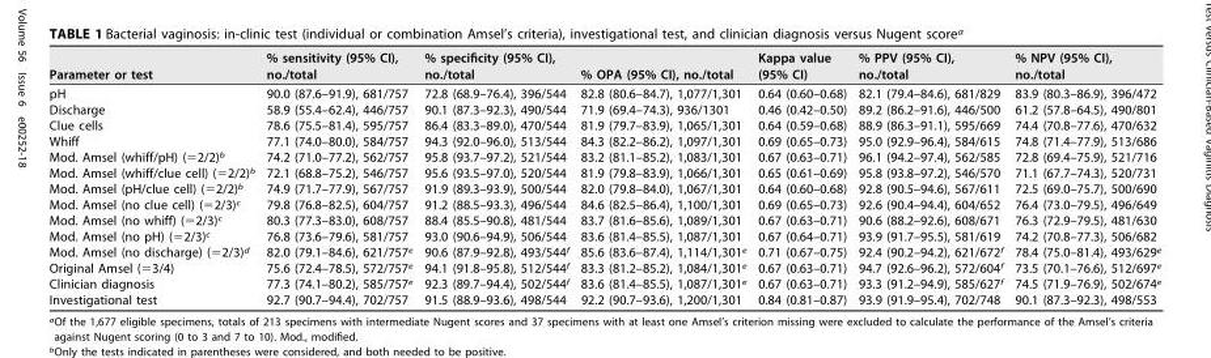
<table><thead><tr><td>Parameter or test</td><td>% sensitivity (95% CI), no./total</td><td>% specificity (95% CI), no./total</td><td>% OPA (95% CI), no./total</td><td>Kappa value (95% CI)</td><td>% PPV (95% CI), no./total</td><td>% NPV (95% CI), no./total</td></tr></thead><tbody><tr><td>pH</td><td>90.0 (87.6–91.9), 681/757</td><td>72.8 (68.9–76.4), 396/544</td><td>82.8 (80.6–84.7), 1,077/1,301</td><td>0.64 (0.60–0.68)</td><td>82.1 (79.4–84.6), 681/829</td><td>83.9 (80.3–86.9), 396/472</td></tr><tr><td>Discharge</td><td>58.9 (55.4–62.4), 446/757</td><td>90.1 (87.3–92.3), 490/544</td><td>71.9 (69.4–74.3), 936/1301</td><td>0.46 (0.42–0.50)</td><td>89.2 (86.2–91.6), 446/500</td><td>61.2 (57.8–64.5), 490/801</td></tr><tr><td>Clue cells</td><td>78.6 (75.5–81.4), 595/757</td><td>86.4 (83.3–89.0), 470/544</td><td>81.9 (79.7–83.9), 1,065/1,301</td><td>0.64 (0.59–0.68)</td><td>88.9 (86.3–91.1), 595/669</td><td>74.4 (70.8–77.6), 470/632</td></tr><tr><td>Whiff</td><td>77.1 (74.0–80.0), 584/757</td><td>94.3 (92.0–96.0), 513/544</td><td>84.3 (82.2–86.2), 1,097/1,301</td><td>0.69 (0.65–0.73)</td><td>95.0 (92.9–96.4), 584/615</td><td>74.8 (71.4–77.9), 513/686</td></tr><tr><td>Mod. Amsel (whiff/pH) (=2/2)<sup>b</sup></td><td>74.2 (71.0–77.2), 562/757</td><td>95.8 (93.7–97.2), 521/544</td><td>83.2 (81.1–85.2), 1,083/1,301</td><td>0.67 (0.63–0.71)</td><td>96.1 (94.2–97.4), 562/585</td><td>72.8 (69.4–75.9), 521/716</td></tr><tr><td>Mod. Amsel (whiff/clue cell) (=2/2)<sup>b</sup></td><td>72.1 (68.8–75.2), 546/757</td><td>95.6 (93.5–97.0), 520/544</td><td>81.9 (79.8–83.9), 1,066/1,301</td><td>0.65 (0.61–0.69)</td><td>95.8 (93.8–97.2), 546/570</td><td>71.1 (67.7–74.3), 520/731</td></tr><tr><td>Mod. Amsel (pH/clue cell) (=2/2)<sup>b</sup></td><td>74.9 (71.7–77.9), 567/757</td><td>91.9 (89.3–93.9), 500/544</td><td>82.0 (79.8–84.0), 1,067/1,301</td><td>0.64 (0.60–0.68)</td><td>92.8 (90.5–94.6), 567/611</td><td>72.5 (69.0–75.7), 500/690</td></tr><tr><td>Mod. Amsel (no clue cell) (=2/3)<sup>c</sup></td><td>79.8 (76.8–82.5), 604/757</td><td>91.2 (88.5–93.3), 496/544</td><td>84.6 (82.5–86.4), 1,100/1,301</td><td>0.69 (0.65–0.73)</td><td>92.6 (90.4–94.4), 604/652</td><td>76.4 (73.0–79.5), 496/649</td></tr><tr><td>Mod. Amsel (no whiff) (=2/3)<sup>c</sup></td><td>80.3 (77.3–83.0), 608/757</td><td>88.4 (85.5–90.8), 481/544</td><td>83.7 (81.6–85.6), 1,089/1,301</td><td>0.67 (0.63–0.71)</td><td>90.6 (88.2–92.6), 608/671</td><td>76.3 (72.9–79.5), 481/630</td></tr><tr><td>Mod. Amsel (no pH) (=2/3)<sup>c</sup></td><td>76.8 (73.6–79.6), 581/757</td><td>93.0 (90.6–94.9), 506/544</td><td>83.6 (81.4–85.5), 1,087/1,301</td><td>0.67 (0.64–0.71)</td><td>93.9 (91.7–95.5), 581/619</td><td>74.2 (70.8–77.3), 506/682</td></tr><tr><td>Mod. Amsel (no discharge) (=2/3)<sup>d</sup></td><td>82.0 (79.1–84.6), 621/757<sup>e</sup></td><td>90.6 (87.9–92.8), 493/544<sup>f</sup></td><td>85.6 (83.6–87.4), 1,114/1,301<sup>e</sup></td><td>0.71 (0.67–0.75)</td><td>92.4 (90.2–94.2), 621/672<sup>f</sup></td><td>78.4 (75.0–81.4), 493/629<sup>e</sup></td></tr><tr><td>Original Amsel (=3/4)</td><td>75.6 (72.4–78.5), 572/757<sup>e</sup></td><td>94.1 (91.8–95.8), 512/544<sup>f</sup></td><td>83.3 (81.2–85.2), 1,084/1,301<sup>e</sup></td><td>0.67 (0.63–0.71)</td><td>94.7 (92.6–96.2), 572/604<sup>f</sup></td><td>73.5 (70.1–76.6), 512/697<sup>e</sup></td></tr><tr><td>Clinician diagnosis</td><td>77.3 (74.1–80.2), 585/757<sup>e</sup></td><td>92.3 (89.7–94.4), 502/544<sup>f</sup></td><td>83.6 (81.4–85.5), 1,087/1,301<sup>e</sup></td><td>0.67 (0.63–0.71)</td><td>93.3 (91.2–94.9), 585/627<sup>f</sup></td><td>74.5 (71.9–76.9), 502/674<sup>e</sup></td></tr><tr><td>Investigational test</td><td>92.7 (90.7–94.4), 702/757</td><td>91.5 (88.9–93.6), 498/544</td><td>92.2 (90.7–93.6), 1,200/1,301</td><td>0.84 (0.81–0.87)</td><td>93.9 (91.9–95.4), 702/748</td><td>90.1 (87.3–92.3), 498/553</td></tr></tbody></table>